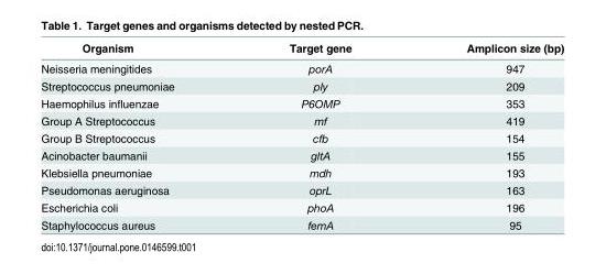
<table><thead><tr><td>Organism</td><td>Target gene</td><td>Amplicon size (bp)</td></tr></thead><tbody><tr><td>Neisseria meningitides</td><td>porA</td><td>947</td></tr><tr><td>Streptococcus pneumoniae</td><td>ply</td><td>209</td></tr><tr><td>Haemophilus influenzae</td><td>P6OMP</td><td>353</td></tr><tr><td>Group A Streptococcus</td><td>mf</td><td>419</td></tr><tr><td>Group B Streptococcus</td><td>cfb</td><td>154</td></tr><tr><td>Acinobacter baumanii</td><td>gltA</td><td>155</td></tr><tr><td>Klebsiella pneumoniae</td><td>mdh</td><td>193</td></tr><tr><td>Pseudomonas aeruginosa</td><td>oprL</td><td>163</td></tr><tr><td>Escherichia coli</td><td>phoA</td><td>196</td></tr><tr><td>Staphylococcus aureus</td><td>femA</td><td>95</td></tr></tbody></table>